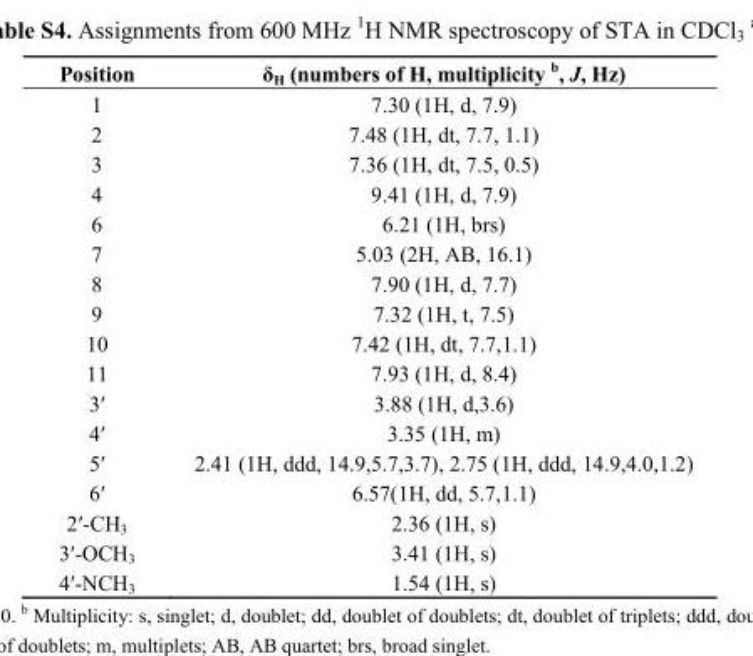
<table><thead><tr><td>Position</td><td>δ<sub>H</sub> (numbers of H, multiplicity <sup>b</sup>, J, Hz)</td></tr></thead><tbody><tr><td>1</td><td>7.30 (1H, d, 7.9)</td></tr><tr><td>2</td><td>7.48 (1H, dt, 7.7, 1.1)</td></tr><tr><td>3</td><td>7.36 (1H, dt, 7.5, 0.5)</td></tr><tr><td>4</td><td>9.41 (1H, d, 7.9)</td></tr><tr><td>6</td><td>6.21 (1H, brs)</td></tr><tr><td>7</td><td>5.03 (2H, AB, 16.1)</td></tr><tr><td>8</td><td>7.90 (1H, d, 7.7)</td></tr><tr><td>9</td><td>7.32 (1H, t, 7.5)</td></tr><tr><td>10</td><td>7.42 (1H, dt, 7.7,1.1)</td></tr><tr><td>11</td><td>7.93 (1H, d, 8.4)</td></tr><tr><td>3′</td><td>3.88 (1H, d,3.6)</td></tr><tr><td>4′</td><td>3.35 (1H, m)</td></tr><tr><td>5′</td><td>2.41 (1H, ddd, 14.9,5.7,3.7), 2.75 (1H, ddd, 14.9,4.0,1.2)</td></tr><tr><td>6′</td><td>6.57(1H, dd, 5.7,1.1)</td></tr><tr><td>2′-CH<sub>3</sub></td><td>2.36 (1H, s)</td></tr><tr><td>3′-OCH<sub>3</sub></td><td>3.41 (1H, s)</td></tr><tr><td>4′-NCH<sub>3</sub></td><td>1.54 (1H, s)</td></tr></tbody></table>